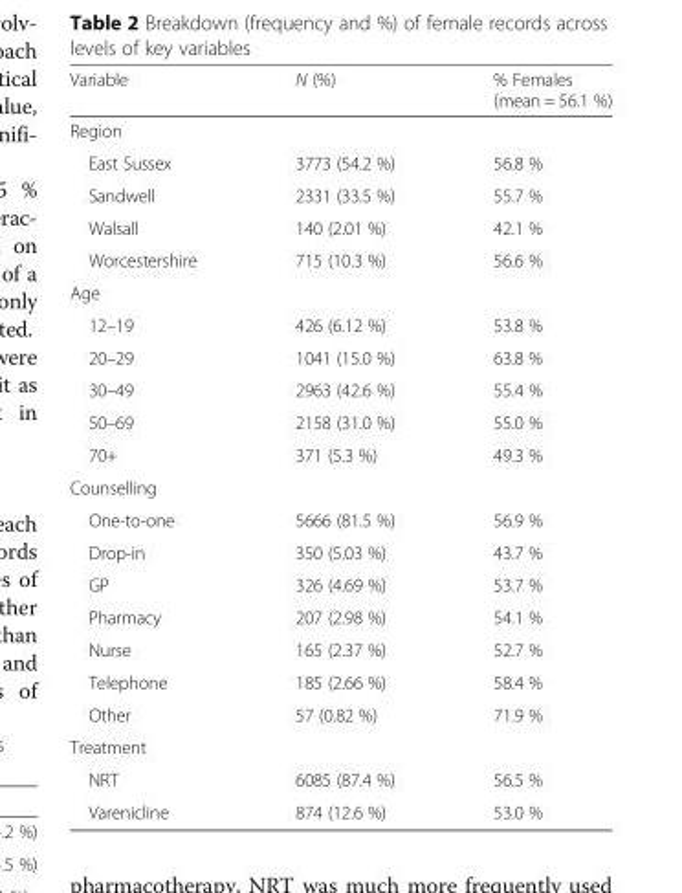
<table><thead><tr><td>Variable</td><td>N (%)</td><td>% Females (mean = 56.1 %)</td></tr></thead><tbody><tr><td colspan="3">Region</td></tr><tr><td>East Sussex</td><td>3773 (54.2 %)</td><td>56.8 %</td></tr><tr><td>Sandwell</td><td>2331 (33.5 %)</td><td>55.7 %</td></tr><tr><td>Walsall</td><td>140 (2.01 %)</td><td>42.1 %</td></tr><tr><td>Worcestershire</td><td>715 (10.3 %)</td><td>56.6 %</td></tr><tr><td colspan="3">Age</td></tr><tr><td>12–19</td><td>426 (6.12 %)</td><td>53.8 %</td></tr><tr><td>20–29</td><td>1041 (15.0 %)</td><td>63.8 %</td></tr><tr><td>30–49</td><td>2963 (42.6 %)</td><td>55.4 %</td></tr><tr><td>50–69</td><td>2158 (31.0 %)</td><td>55.0 %</td></tr><tr><td>70+</td><td>371 (5.3 %)</td><td>49.3 %</td></tr><tr><td colspan="3">Counselling</td></tr><tr><td>One-to-one</td><td>5666 (81.5 %)</td><td>56.9 %</td></tr><tr><td>Drop-in</td><td>350 (5.03 %)</td><td>43.7 %</td></tr><tr><td>GP</td><td>326 (4.69 %)</td><td>53.7 %</td></tr><tr><td>Pharmacy</td><td>207 (2.98 %)</td><td>54.1 %</td></tr><tr><td>Nurse</td><td>165 (2.37 %)</td><td>52.7 %</td></tr><tr><td>Telephone</td><td>185 (2.66 %)</td><td>58.4 %</td></tr><tr><td>Other</td><td>57 (0.82 %)</td><td>71.9 %</td></tr><tr><td colspan="3">Treatment</td></tr><tr><td>NRT</td><td>6085 (87.4 %)</td><td>56.5 %</td></tr><tr><td>Varenicline</td><td>874 (12.6 %)</td><td>53.0 %</td></tr></tbody></table>